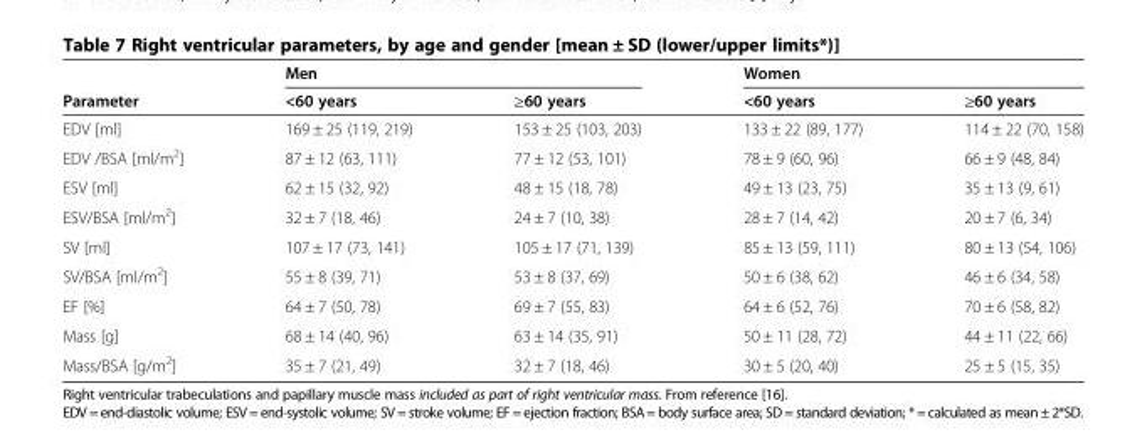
<table><thead><tr><td rowspan="2">Parameter</td><td colspan="2">Men</td><td colspan="2">Women</td></tr><tr><td>&lt;60 years</td><td>≥60 years</td><td>&lt;60 years</td><td>≥60 years</td></tr></thead><tbody><tr><td>EDV [ml]</td><td>169 ± 25 (119, 219)</td><td>153 ± 25 (103, 203)</td><td>133 ± 22 (89, 177)</td><td>114 ± 22 (70, 158)</td></tr><tr><td>EDV /BSA [ml/m<sup>2</sup>]</td><td>87 ± 12 (63, 111)</td><td>77 ± 12 (53, 101)</td><td>78 ± 9 (60, 96)</td><td>66 ± 9 (48, 84)</td></tr><tr><td>ESV [ml]</td><td>62 ± 15 (32, 92)</td><td>48 ± 15 (18, 78)</td><td>49 ± 13 (23, 75)</td><td>35 ± 13 (9, 61)</td></tr><tr><td>ESV/BSA [ml/m<sup>2</sup>]</td><td>32 ± 7 (18, 46)</td><td>24 ± 7 (10, 38)</td><td>28 ± 7 (14, 42)</td><td>20 ± 7 (6, 34)</td></tr><tr><td>SV [ml]</td><td>107 ± 17 (73, 141)</td><td>105 ± 17 (71, 139)</td><td>85 ± 13 (59, 111)</td><td>80 ± 13 (54, 106)</td></tr><tr><td>SV/BSA [ml/m<sup>2</sup>]</td><td>55 ± 8 (39, 71)</td><td>53 ± 8 (37, 69)</td><td>50 ± 6 (38, 62)</td><td>46 ± 6 (34, 58)</td></tr><tr><td>EF [%]</td><td>64 ± 7 (50, 78)</td><td>69 ± 7 (55, 83)</td><td>64 ± 6 (52, 76)</td><td>70 ± 6 (58, 82)</td></tr><tr><td>Mass [g]</td><td>68 ± 14 (40, 96)</td><td>63 ± 14 (35, 91)</td><td>50 ± 11 (28, 72)</td><td>44 ± 11 (22, 66)</td></tr><tr><td>Mass/BSA [g/m<sup>2</sup>]</td><td>35 ± 7 (21, 49)</td><td>32 ± 7 (18, 46)</td><td>30 ± 5 (20, 40)</td><td>25 ± 5 (15, 35)</td></tr></tbody></table>